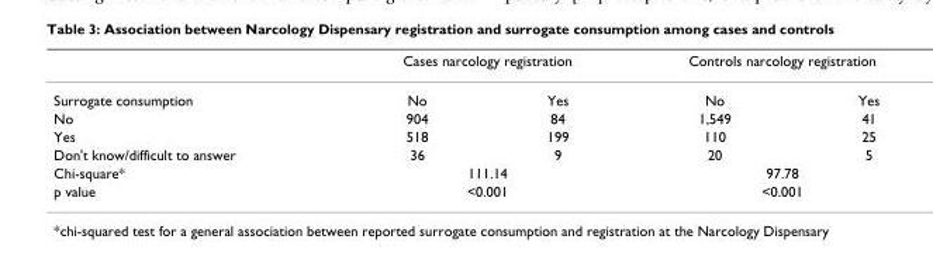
<table><thead><tr><td rowspan="2">Surrogate consumption</td><td colspan="2">Cases narcology registration</td><td colspan="2">Controls narcology registration</td></tr><tr><td>No</td><td>Yes</td><td>No</td><td>Yes</td></tr></thead><tbody><tr><td>No</td><td>904</td><td>84</td><td>1,549</td><td>41</td></tr><tr><td>Yes</td><td>518</td><td>199</td><td>110</td><td>25</td></tr><tr><td>Don&#x27;t know/difficult to answer</td><td>36</td><td>9</td><td>20</td><td>5</td></tr><tr><td>Chi-square*</td><td colspan="2">111.14</td><td colspan="2">97.78</td></tr><tr><td>p value</td><td colspan="2">&lt;0.001</td><td colspan="2">&lt;0.001</td></tr></tbody></table>